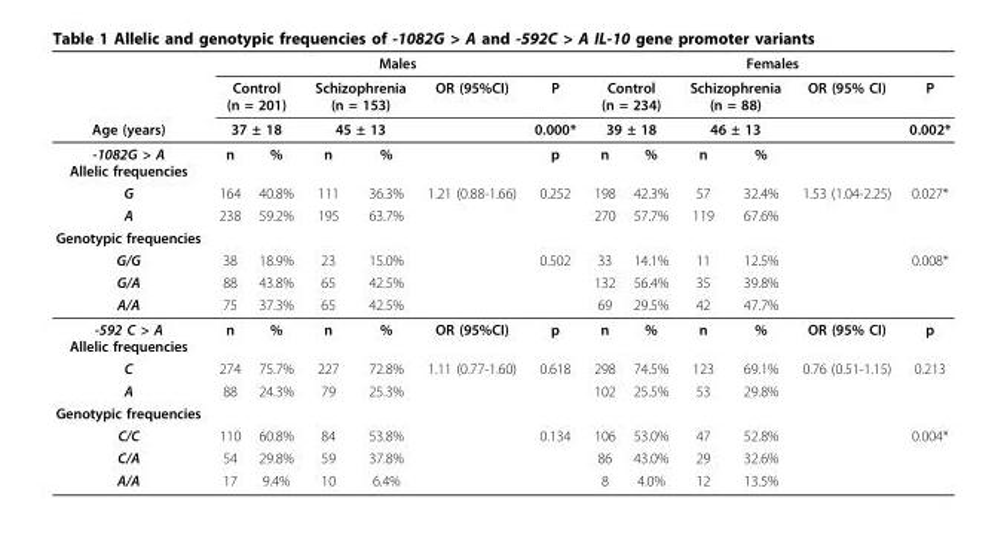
<table><thead><tr><td rowspan="4">Age (years) -1082G &gt; A Allelic frequencies</td><td colspan="6">Males</td><td colspan="6">Females</td></tr><tr><td rowspan="2" colspan="2">Control (n = 201) 37 ± 18</td><td rowspan="2" colspan="2">Schizophrenia (n = 153) 45 ± 13</td><td rowspan="3">OR (95%CI)</td><td rowspan="3">P 0.000* p</td><td rowspan="2" colspan="2">Control (n = 234) 39 ± 18</td><td rowspan="2" colspan="2">Schizophrenia (n = 88) 46 ± 13</td><td rowspan="3">OR (95% CI)</td><td rowspan="3">P 0.002*</td></tr><tr></tr><tr><td>n</td><td>%</td><td>n</td><td>%</td><td>n</td><td>%</td><td>n</td><td>%</td></tr></thead><tbody><tr><td>G</td><td>164</td><td>40.8%</td><td>111</td><td>36.3%</td><td>1.21 (0.88-1.66)</td><td>0.252</td><td>198</td><td>42.3%</td><td>57</td><td>32.4%</td><td>1.53 (1.04-2.25)</td><td>0.027*</td></tr><tr><td>A</td><td>238</td><td>59.2%</td><td>195</td><td>63.7%</td><td></td><td></td><td>270</td><td>57.7%</td><td>119</td><td>67.6%</td><td></td><td></td></tr><tr><td colspan="13">Genotypic frequencies</td></tr><tr><td>G/G</td><td>38</td><td>18.9%</td><td>23</td><td>15.0%</td><td></td><td>0.502</td><td>33</td><td>14.1%</td><td>11</td><td>12.5%</td><td></td><td>0.008*</td></tr><tr><td>G/A</td><td>88</td><td>43.8%</td><td>65</td><td>42.5%</td><td></td><td></td><td>132</td><td>56.4%</td><td>35</td><td>39.8%</td><td></td><td></td></tr><tr><td>A/A</td><td>75</td><td>37.3%</td><td>65</td><td>42.5%</td><td></td><td></td><td>69</td><td>29.5%</td><td>42</td><td>47.7%</td><td></td><td></td></tr><tr><td>-592 C &gt; A Allelic frequencies</td><td>n</td><td>%</td><td>n</td><td>%</td><td>OR (95%CI)</td><td>p</td><td>n</td><td>%</td><td>n</td><td>%</td><td>OR (95% CI)</td><td>p</td></tr><tr><td>C</td><td>274</td><td>75.7%</td><td>227</td><td>72.8%</td><td>1.11 (0.77-1.60)</td><td>0.618</td><td>298</td><td>74.5%</td><td>123</td><td>69.1%</td><td>0.76 (0.51-1.15)</td><td>0.213</td></tr><tr><td>A</td><td>88</td><td>24.3%</td><td>79</td><td>25.3%</td><td></td><td></td><td>102</td><td>25.5%</td><td>53</td><td>29.8%</td><td></td><td></td></tr><tr><td colspan="13">Genotypic frequencies</td></tr><tr><td>C/C</td><td>110</td><td>60.8%</td><td>84</td><td>53.8%</td><td></td><td>0.134</td><td>106</td><td>53.0%</td><td>47</td><td>52.8%</td><td></td><td>0.004*</td></tr><tr><td>C/A</td><td>54</td><td>29.8%</td><td>59</td><td>37.8%</td><td></td><td></td><td>86</td><td>43.0%</td><td>29</td><td>32.6%</td><td></td><td></td></tr><tr><td>A/A</td><td>17</td><td>9.4%</td><td>10</td><td>6.4%</td><td></td><td></td><td>8</td><td>4.0%</td><td>12</td><td>13.5%</td><td></td><td></td></tr></tbody></table>